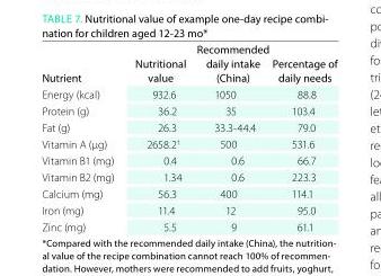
<table><thead><tr><td>Nutrient</td><td>Nutritional value</td><td>Recommended daily intake (China)</td><td>Percentage of daily needs</td></tr></thead><tbody><tr><td>Energy (kcal)</td><td>932.6</td><td>1050</td><td>88.8</td></tr><tr><td>Protein (g)</td><td>36.2</td><td>35</td><td>103.4</td></tr><tr><td>Fat (g)</td><td>26.3</td><td>33.3-44.4</td><td>79.0</td></tr><tr><td>Vitamin A (μg)</td><td>2658.2<sup>†</sup></td><td>500</td><td>531.6</td></tr><tr><td>Vitamin B1 (mg)</td><td>0.4</td><td>0.6</td><td>66.7</td></tr><tr><td>Vitamin B2 (mg)</td><td>1.34</td><td>0.6</td><td>223.3</td></tr><tr><td>Calcium (mg)</td><td>56.3</td><td>400</td><td>114.1</td></tr><tr><td>Iron (mg)</td><td>11.4</td><td>12</td><td>95.0</td></tr><tr><td>Zinc (mg)</td><td>5.5</td><td>9</td><td>61.1</td></tr></tbody></table>